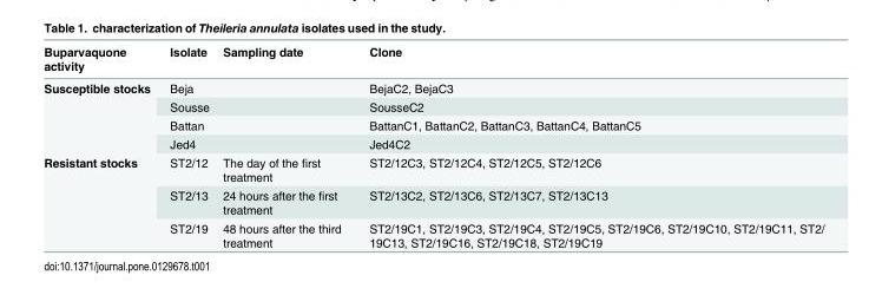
<table><thead><tr><td>Buparvaquone activity</td><td>Isolate</td><td>Sampling date</td><td>Clone</td></tr></thead><tbody><tr><td rowspan="4">Susceptible stocks</td><td>Beja</td><td></td><td>BejaC2, BejaC3</td></tr><tr><td>Sousse</td><td></td><td>SousseC2</td></tr><tr><td>Battan</td><td></td><td>BattanC1, BattanC2, BattanC3, BattanC4, BattanC5</td></tr><tr><td>Jed4</td><td></td><td>Jed4C2</td></tr><tr><td rowspan="3">Resistant stocks</td><td>ST2/12</td><td>The day of the first treatment</td><td>ST2/12C3, ST2/12C4, ST2/12C5, ST2/12C6</td></tr><tr><td>ST2/13</td><td>24 hours after the first treatment</td><td>ST2/13C2, ST2/13C6, ST2/13C7, ST2/13C13</td></tr><tr><td>ST2/19</td><td>48 hours after the third treatment</td><td>ST2/19C1, ST2/19C3, ST2/19C4, ST2/19C5, ST2/19C6, ST2/19C10, ST2/19C11, ST2/ 19C13, ST2/19C16, ST2/19C18, ST2/19C19</td></tr></tbody></table>